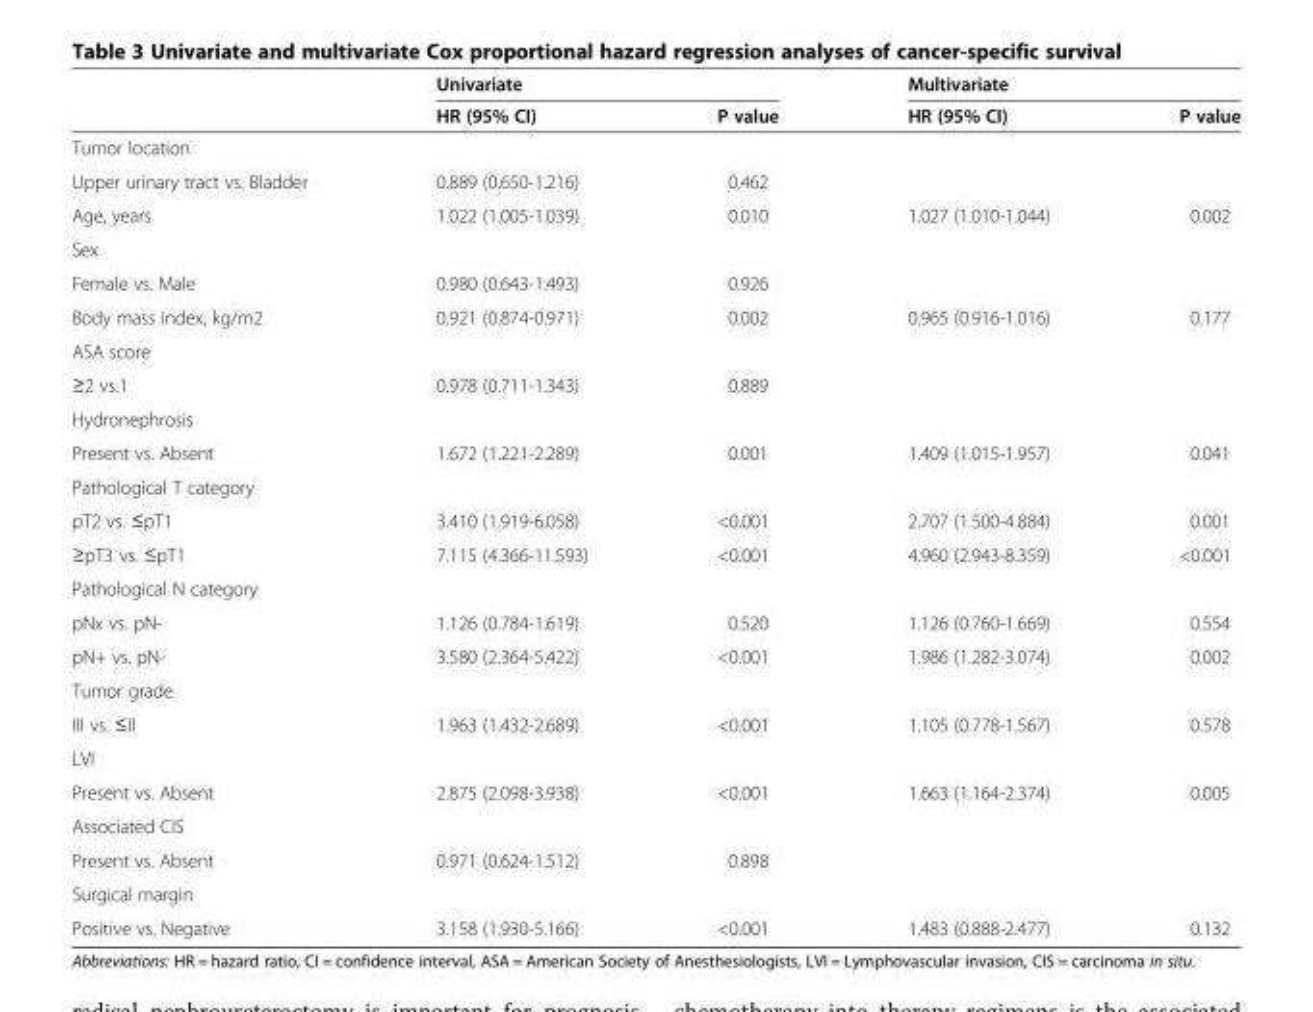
<table><thead><tr><td rowspan="2"></td><td colspan="2">Univariate</td><td colspan="2">Multivariate</td></tr><tr><td>HR (95% CI)</td><td>P value</td><td>HR (95% CI)</td><td>P value</td></tr></thead><tbody><tr><td colspan="5">Tumor location</td></tr><tr><td>Upper urinary tract vs. Bladder</td><td>0.889 (0.650-1.216)</td><td>0.462</td><td></td><td></td></tr><tr><td>Age, years</td><td>1.022 (1.005-1.039)</td><td>0.010</td><td>1.027 (1.010-1.044)</td><td>0.002</td></tr><tr><td colspan="5">Sex</td></tr><tr><td>Female vs. Male</td><td>0.980 (0.643-1.493)</td><td>0.926</td><td></td><td></td></tr><tr><td>Body mass index, kg/m2</td><td>0.921 (0.874-0.971)</td><td>0.002</td><td>0.965 (0.916-1.016)</td><td>0.177</td></tr><tr><td colspan="5">ASA score</td></tr><tr><td>≥2 vs.1</td><td>0.978 (0.711-1.343)</td><td>0.889</td><td></td><td></td></tr><tr><td colspan="5">Hydronephrosis</td></tr><tr><td>Present vs. Absent</td><td>1.672 (1.221-2.289)</td><td>0.001</td><td>1.409 (1.015-1.957)</td><td>0.041</td></tr><tr><td colspan="5">Pathological T category</td></tr><tr><td>pT2 vs. ≤pT1</td><td>3.410 (1.919-6.058)</td><td>&lt;0.001</td><td>2.707 (1.500-4.884)</td><td>0.001</td></tr><tr><td>≥pT3 vs. ≤pT1</td><td>7.115 (4.366-11.593)</td><td>&lt;0.001</td><td>4.960 (2.943-8.359)</td><td>&lt;0.001</td></tr><tr><td colspan="5">Pathological N category</td></tr><tr><td>pNx vs. pN-</td><td>1.126 (0.784-1.619)</td><td>0.520</td><td>1.126 (0.760-1.669)</td><td>0.554</td></tr><tr><td>pN+ vs. pN-</td><td>3.580 (2.364-5.422)</td><td>&lt;0.001</td><td>1.986 (1.282-3.074)</td><td>0.002</td></tr><tr><td colspan="5">Tumor grade</td></tr><tr><td>III vs. ≤II</td><td>1.963 (1.432-2.689)</td><td>&lt;0.001</td><td>1.105 (0.778-1.567)</td><td>0.578</td></tr><tr><td colspan="5">LVI</td></tr><tr><td>Present vs. Absent</td><td>2.875 (2.098-3.938)</td><td>&lt;0.001</td><td>1.663 (1.164-2.374)</td><td>0.005</td></tr><tr><td colspan="5">Associated CIS</td></tr><tr><td>Present vs. Absent</td><td>0.971 (0.624-1.512)</td><td>0.898</td><td></td><td></td></tr><tr><td colspan="5">Surgical margin</td></tr><tr><td>Positive vs. Negative</td><td>3.158 (1.930-5.166)</td><td>&lt;0.001</td><td>1.483 (0.888-2.477)</td><td>0.132</td></tr></tbody></table>